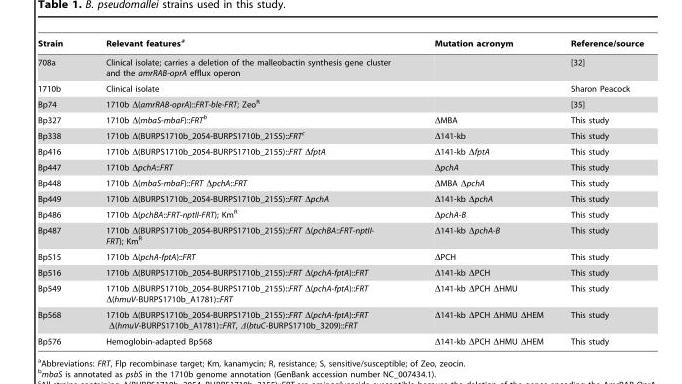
<table><thead><tr><td>Strain</td><td>Relevant features<sup>a</sup></td><td>Mutation acronym</td><td>Reference/source</td></tr></thead><tbody><tr><td>708a</td><td>Clinical isolate; carries a deletion of the malleobactin synthesis gene cluster and the amrRAB-oprA efflux operon</td><td></td><td>[32]</td></tr><tr><td>1710b</td><td>Clinical isolate</td><td></td><td>Sharon Peacock</td></tr><tr><td>Bp74</td><td>1710b Δ(amrRAB-oprA)::FRT-ble-FRT; Zeo<sup>R</sup></td><td></td><td>[35]</td></tr><tr><td>Bp327</td><td>1710b Δ(mbaS-mbaF)::FRTb</td><td>ΔMBA</td><td>This study</td></tr><tr><td>Bp338</td><td>1710b Δ(BURPS1710b_2054-BURPS1710b_2155)::FRTc</td><td>Δ141-kb</td><td>This study</td></tr><tr><td>Bp416</td><td>1710b Δ(BURPS1710b_2054-BURPS1710b_2155)::FRT ΔfptA</td><td>Δ141-kb ΔfptA</td><td>This study</td></tr><tr><td>Bp447</td><td>1710b ΔpchA::FRT</td><td>ΔpchA</td><td>This study</td></tr><tr><td>Bp448</td><td>1710b Δ(mbaS-mbaF)::FRT ΔpchA::FRT</td><td>ΔMBA ΔpchA</td><td>This study</td></tr><tr><td>Bp449</td><td>1710b Δ(BURPS1710b_2054-BURPS1710b_2155)::FRT ΔpchA</td><td>Δ141-kb ΔpchA</td><td>This study</td></tr><tr><td>Bp486</td><td>1710b Δ(pchBA::FRT-nptII-FRT); Km<sup>R</sup></td><td>ΔpchA-B</td><td>This study</td></tr><tr><td>Bp487</td><td>1710b Δ(BURPS1710b_2054-BURPS1710b_2155)::FRT Δ(pchBA::FRT-nptII- FRT); Km<sup>R</sup></td><td>Δ141-kb ΔpchA-B</td><td>This study</td></tr><tr><td>Bp515</td><td>1710b Δ(pchA-fptA)::FRT</td><td>ΔPCH</td><td>This study</td></tr><tr><td>Bp516</td><td>1710b Δ(BURPS1710b_2054-BURPS1710b_2155)::FRT Δ(pchA-fptA)::FRT</td><td>Δ141-kb ΔPCH</td><td>This study</td></tr><tr><td>Bp549</td><td>1710b Δ(BURPS1710b_2054-BURPS1710b_2155)::FRT Δ(pchA-fptA)::FRT Δ(hmuV-BURPS1710b_A1781)::FRT</td><td>Δ141-kb ΔPCH ΔHMU</td><td>This study</td></tr><tr><td>Bp568</td><td>1710b Δ(BURPS1710b_2054-BURPS1710b_2155)::FRT Δ(pchA-fptA)::FRT Δ(hmuV-BURPS1710b_A1781)::FRT, Δ(btuC-BURPS1710b_3209)::FRT</td><td>Δ141-kb ΔPCH ΔHMU ΔHEM</td><td>This study</td></tr><tr><td>Bp576</td><td>Hemoglobin-adapted Bp568</td><td>Δ141-kb ΔPCH ΔHMU ΔHEM</td><td>This study</td></tr></tbody></table>